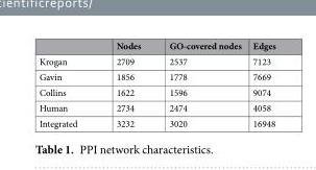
<table><thead><tr><td></td><td>Nodes</td><td>GO-covered nodes</td><td>Edges</td></tr></thead><tbody><tr><td>Krogan</td><td>2709</td><td>2537</td><td>7123</td></tr><tr><td>Gavin</td><td>1856</td><td>1778</td><td>7669</td></tr><tr><td>Collins</td><td>1622</td><td>1596</td><td>9074</td></tr><tr><td>Human</td><td>2734</td><td>2474</td><td>4058</td></tr><tr><td>Integrated</td><td>3232</td><td>3020</td><td>16948</td></tr></tbody></table>